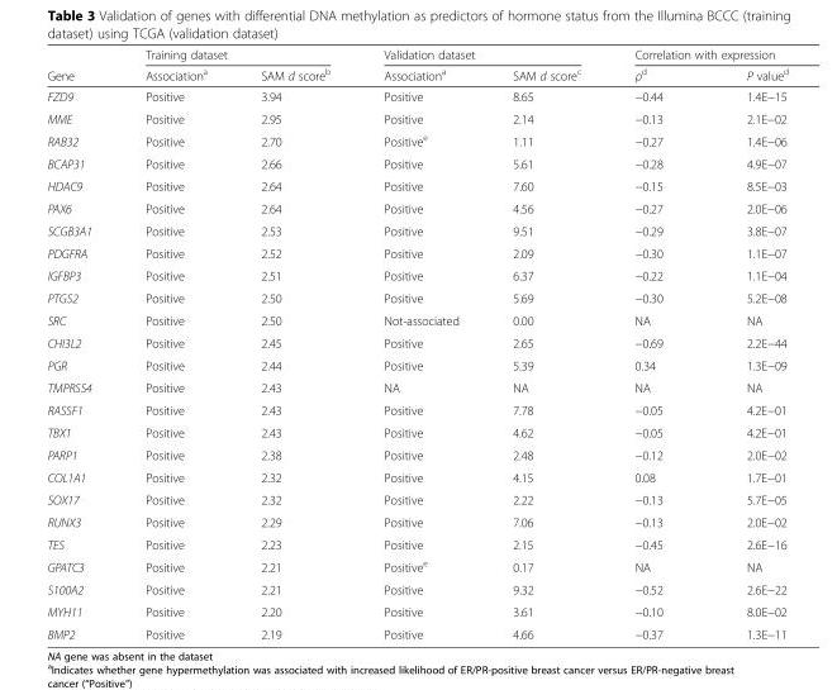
<table><thead><tr><td rowspan="2">Gene</td><td colspan="2">Training dataset</td><td colspan="2">Validation dataset</td><td colspan="2">Correlation with expression</td></tr><tr><td>Association<sup>a</sup></td><td>SAM d score<sup>b</sup></td><td>Association<sup>a</sup></td><td>SAM d score<sup>c</sup></td><td>ρ<sup>d</sup></td><td>P value<sup>d</sup></td></tr></thead><tbody><tr><td>FZD9</td><td>Positive</td><td>3.94</td><td>Positive</td><td>8.65</td><td>−0.44</td><td>1.4E−15</td></tr><tr><td>MME</td><td>Positive</td><td>2.95</td><td>Positive</td><td>2.14</td><td>−0.13</td><td>2.1E−02</td></tr><tr><td>RAB32</td><td>Positive</td><td>2.70</td><td>Positive<sup>e</sup></td><td>1.11</td><td>−0.27</td><td>1.4E−06</td></tr><tr><td>BCAP31</td><td>Positive</td><td>2.66</td><td>Positive</td><td>5.61</td><td>−0.28</td><td>4.9E−07</td></tr><tr><td>HDAC9</td><td>Positive</td><td>2.64</td><td>Positive</td><td>7.60</td><td>−0.15</td><td>8.5E−03</td></tr><tr><td>PAX6</td><td>Positive</td><td>2.64</td><td>Positive</td><td>4.56</td><td>−0.27</td><td>2.0E−06</td></tr><tr><td>SCGB3A1</td><td>Positive</td><td>2.53</td><td>Positive</td><td>9.51</td><td>−0.29</td><td>3.8E−07</td></tr><tr><td>PDGFRA</td><td>Positive</td><td>2.52</td><td>Positive</td><td>2.09</td><td>−0.30</td><td>1.1E−07</td></tr><tr><td>IGFBP3</td><td>Positive</td><td>2.51</td><td>Positive</td><td>6.37</td><td>−0.22</td><td>1.1E−04</td></tr><tr><td>PTGS2</td><td>Positive</td><td>2.50</td><td>Positive</td><td>5.69</td><td>−0.30</td><td>5.2E−08</td></tr><tr><td>SRC</td><td>Positive</td><td>2.50</td><td>Not-associated</td><td>0.00</td><td>NA</td><td>NA</td></tr><tr><td>CHI3L2</td><td>Positive</td><td>2.45</td><td>Positive</td><td>2.65</td><td>−0.69</td><td>2.2E−44</td></tr><tr><td>PGR</td><td>Positive</td><td>2.44</td><td>Positive</td><td>5.39</td><td>0.34</td><td>1.3E−09</td></tr><tr><td>TMPRSS4</td><td>Positive</td><td>2.43</td><td>NA</td><td>NA</td><td>NA</td><td>NA</td></tr><tr><td>RASSF1</td><td>Positive</td><td>2.43</td><td>Positive</td><td>7.78</td><td>−0.05</td><td>4.2E−01</td></tr><tr><td>TBX1</td><td>Positive</td><td>2.43</td><td>Positive</td><td>4.62</td><td>−0.05</td><td>4.2E−01</td></tr><tr><td>PARP1</td><td>Positive</td><td>2.38</td><td>Positive</td><td>2.48</td><td>−0.12</td><td>2.0E−02</td></tr><tr><td>COL1A1</td><td>Positive</td><td>2.32</td><td>Positive</td><td>4.15</td><td>0.08</td><td>1.7E−01</td></tr><tr><td>SOX17</td><td>Positive</td><td>2.32</td><td>Positive</td><td>2.22</td><td>−0.13</td><td>5.7E−05</td></tr><tr><td>RUNX3</td><td>Positive</td><td>2.29</td><td>Positive</td><td>7.06</td><td>−0.13</td><td>2.0E−02</td></tr><tr><td>TES</td><td>Positive</td><td>2.23</td><td>Positive</td><td>2.15</td><td>−0.45</td><td>2.6E−16</td></tr><tr><td>GPATC3</td><td>Positive</td><td>2.21</td><td>Positive<sup>e</sup></td><td>0.17</td><td>NA</td><td>NA</td></tr><tr><td>S100A2</td><td>Positive</td><td>2.21</td><td>Positive</td><td>9.32</td><td>−0.52</td><td>2.6E−22</td></tr><tr><td>MYH11</td><td>Positive</td><td>2.20</td><td>Positive</td><td>3.61</td><td>−0.10</td><td>8.0E−02</td></tr><tr><td>BMP2</td><td>Positive</td><td>2.19</td><td>Positive</td><td>4.66</td><td>−0.37</td><td>1.3E−11</td></tr></tbody></table>